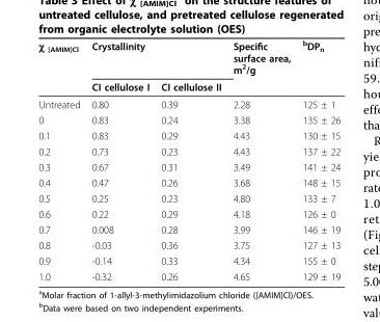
<table><thead><tr><td rowspan="2">χ <sub>[AMIM]Cl</sub></td><td colspan="2">Crystallinity</td><td rowspan="2">Specific surface area, m<sup>2</sup>/g</td><td rowspan="2"><sup>b</sup>DP<sub>n</sub></td></tr><tr><td>CI cellulose I</td><td>CI cellulose II</td></tr></thead><tbody><tr><td>Untreated</td><td>0.80</td><td>0.39</td><td>2.28</td><td>125 ± 1</td></tr><tr><td>0</td><td>0.83</td><td>0.24</td><td>3.38</td><td>135 ± 26</td></tr><tr><td>0.1</td><td>0.83</td><td>0.29</td><td>4.43</td><td>130 ± 15</td></tr><tr><td>0.2</td><td>0.73</td><td>0.23</td><td>4.43</td><td>137 ± 22</td></tr><tr><td>0.3</td><td>0.67</td><td>0.31</td><td>3.49</td><td>141 ± 24</td></tr><tr><td>0.4</td><td>0.47</td><td>0.26</td><td>3.68</td><td>148 ± 15</td></tr><tr><td>0.5</td><td>0.25</td><td>0.23</td><td>4.80</td><td>133 ± 7</td></tr><tr><td>0.6</td><td>0.22</td><td>0.29</td><td>4.18</td><td>126 ± 0</td></tr><tr><td>0.7</td><td>0.008</td><td>0.28</td><td>3.99</td><td>146 ± 19</td></tr><tr><td>0.8</td><td>-0.03</td><td>0.36</td><td>3.75</td><td>127 ± 13</td></tr><tr><td>0.9</td><td>-0.14</td><td>0.33</td><td>4.34</td><td>155 ± 0</td></tr><tr><td>1.0</td><td>-0.32</td><td>0.26</td><td>4.65</td><td>129 ± 19</td></tr></tbody></table>